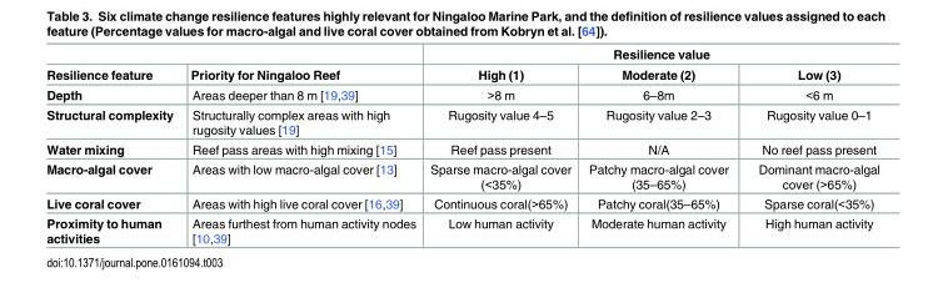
<table><thead><tr><td rowspan="2">Resilience feature</td><td rowspan="2">Priority for Ningaloo Reef</td><td colspan="3">Resilience value</td></tr><tr><td>High (1)</td><td>Moderate (2)</td><td>Low (3)</td></tr></thead><tbody><tr><td>Depth</td><td>Areas deeper than 8 m [19,39]</td><td>&gt;8 m</td><td>6–8m</td><td>&lt;6 m</td></tr><tr><td>Structural complexity</td><td>Structurally complex areas with high rugosity values [19]</td><td>Rugosity value 4–5</td><td>Rugosity value 2–3</td><td>Rugosity value 0–1</td></tr><tr><td>Water mixing</td><td>Reef pass areas with high mixing [15]</td><td>Reef pass present</td><td>N/A</td><td>No reef pass present</td></tr><tr><td>Macro-algal cover</td><td>Areas with low macro-algal cover [13]</td><td>Sparse macro-algal cover (&lt;35%)</td><td>Patchy macro-algal cover (35–65%)</td><td>Dominant macro-algal cover (&gt;65%)</td></tr><tr><td>Live coral cover</td><td>Areas with high live coral cover [16,39]</td><td>Continuous coral(&gt;65%)</td><td>Patchy coral(35–65%)</td><td>Sparse coral(&lt;35%)</td></tr><tr><td>Proximity to human activities</td><td>Areas furthest from human activity nodes [10,39]</td><td>Low human activity</td><td>Moderate human activity</td><td>High human activity</td></tr></tbody></table>